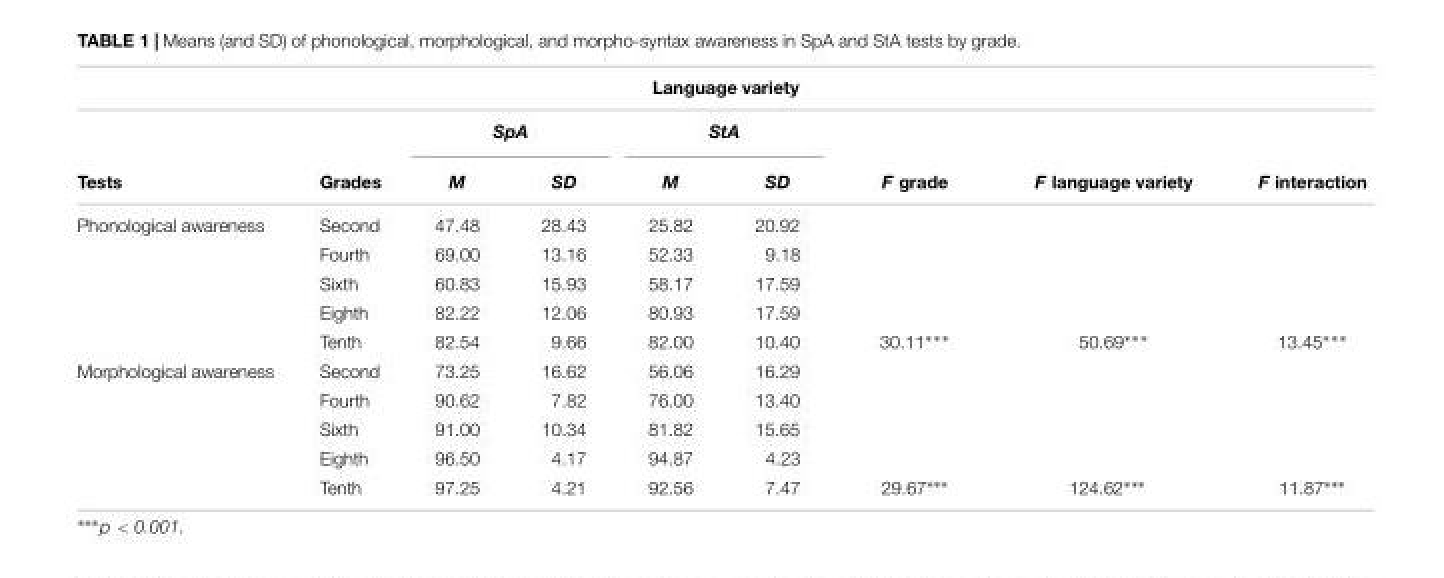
<table><thead><tr><td colspan="9">Language variety</td></tr><tr><td rowspan="2">Tests</td><td rowspan="2">Grades</td><td colspan="2">SpA</td><td colspan="2">StA</td><td rowspan="2">F grade</td><td rowspan="2">F language variety</td><td rowspan="2">F interaction</td></tr><tr><td>M</td><td>SD</td><td>M</td><td>SD</td></tr></thead><tbody><tr><td rowspan="5">Phonological awareness</td><td>Second</td><td>47.48</td><td>28.43</td><td>25.82</td><td>20.92</td><td></td><td></td><td></td></tr><tr><td>Fourth</td><td>69.00</td><td>13.16</td><td>52.33</td><td>9.18</td><td></td><td></td><td></td></tr><tr><td>Sixth</td><td>60.83</td><td>15.93</td><td>58.17</td><td>17.59</td><td></td><td></td><td></td></tr><tr><td>Eighth</td><td>82.22</td><td>12.06</td><td>80.93</td><td>17.59</td><td></td><td></td><td></td></tr><tr><td>Tenth</td><td>82.54</td><td>9.66</td><td>82.00</td><td>10.40</td><td>30.11∗∗∗</td><td>50.69∗∗∗</td><td>13.45∗∗∗</td></tr><tr><td rowspan="5">Morphological awareness</td><td>Second</td><td>73.25</td><td>16.62</td><td>56.06</td><td>16.29</td><td></td><td></td><td></td></tr><tr><td>Fourth</td><td>90.62</td><td>7.82</td><td>76.00</td><td>13.40</td><td></td><td></td><td></td></tr><tr><td>Sixth</td><td>91.00</td><td>10.34</td><td>81.82</td><td>15.65</td><td></td><td></td><td></td></tr><tr><td>Eighth</td><td>96.50</td><td>4.17</td><td>94.87</td><td>4.23</td><td></td><td></td><td></td></tr><tr><td>Tenth</td><td>97.25</td><td>4.21</td><td>92.56</td><td>7.47</td><td>29.67∗∗∗</td><td>124.62∗∗∗</td><td>11.87∗∗∗</td></tr></tbody></table>